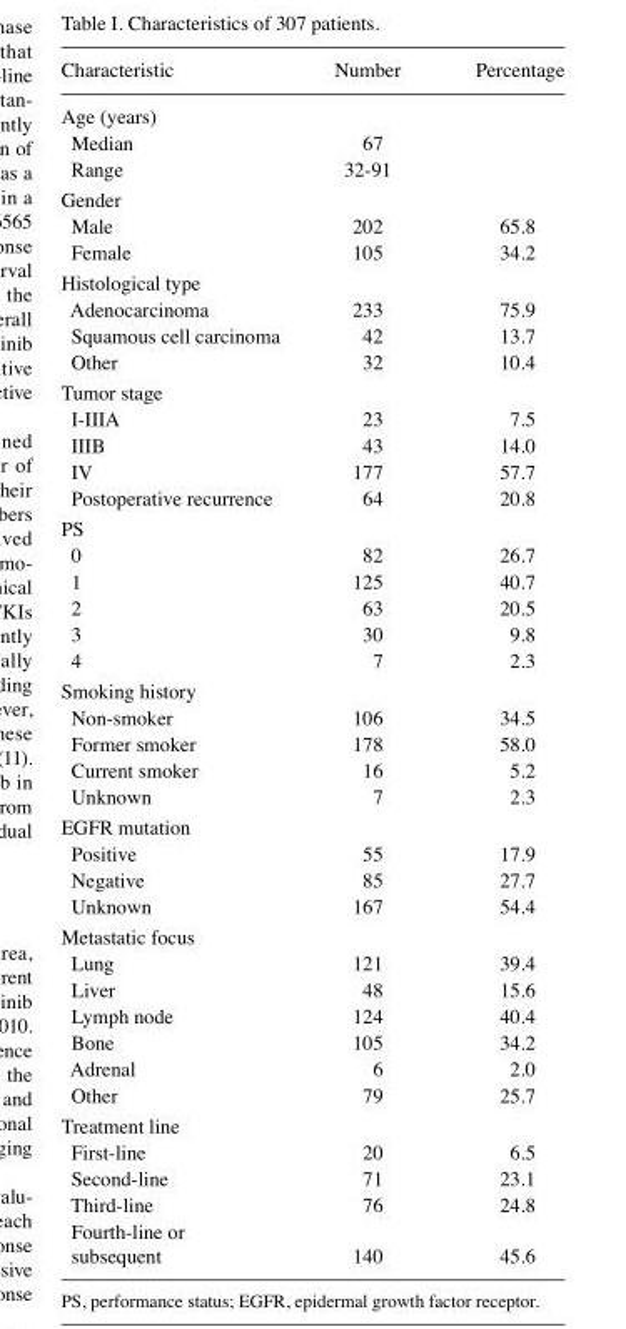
<table><thead><tr><td>Characteristic</td><td>Number</td><td>Percentage</td></tr></thead><tbody><tr><td colspan="3">Age (years)</td></tr><tr><td>Median</td><td>67</td><td></td></tr><tr><td>Range</td><td>32-91</td><td></td></tr><tr><td colspan="3">Gender</td></tr><tr><td>Male</td><td>202</td><td>65.8</td></tr><tr><td>Female</td><td>105</td><td>34.2</td></tr><tr><td colspan="3">Histological type</td></tr><tr><td>Adenocarcinoma</td><td>233</td><td>75.9</td></tr><tr><td>Squamous cell carcinoma</td><td>42</td><td>13.7</td></tr><tr><td>Other</td><td>32</td><td>10.4</td></tr><tr><td colspan="3">Tumor stage</td></tr><tr><td>I-IIIA</td><td>23</td><td>7.5</td></tr><tr><td>IIIB</td><td>43</td><td>14.0</td></tr><tr><td>IV</td><td>177</td><td>57.7</td></tr><tr><td>Postoperative recurrence</td><td>64</td><td>20.8</td></tr><tr><td colspan="3">PS</td></tr><tr><td>0</td><td>82</td><td>26.7</td></tr><tr><td>1</td><td>125</td><td>40.7</td></tr><tr><td>2</td><td>63</td><td>20.5</td></tr><tr><td>3</td><td>30</td><td>9.8</td></tr><tr><td>4</td><td>7</td><td>2.3</td></tr><tr><td colspan="3">Smoking history</td></tr><tr><td>Non-smoker</td><td>106</td><td>34.5</td></tr><tr><td>Former smoker</td><td>178</td><td>58.0</td></tr><tr><td>Current smoker</td><td>16</td><td>5.2</td></tr><tr><td>Unknown</td><td>7</td><td>2.3</td></tr><tr><td colspan="3">EGFR mutation</td></tr><tr><td>Positive</td><td>55</td><td>17.9</td></tr><tr><td>Negative</td><td>85</td><td>27.7</td></tr><tr><td>Unknown</td><td>167</td><td>54.4</td></tr><tr><td colspan="3">Metastatic focus</td></tr><tr><td>Lung</td><td>121</td><td>39.4</td></tr><tr><td>Liver</td><td>48</td><td>15.6</td></tr><tr><td>Lymph node</td><td>124</td><td>40.4</td></tr><tr><td>Bone</td><td>105</td><td>34.2</td></tr><tr><td>Adrenal</td><td>6</td><td>2.0</td></tr><tr><td>Other</td><td>79</td><td>25.7</td></tr><tr><td colspan="3">Treatment line</td></tr><tr><td>First-line</td><td>20</td><td>6.5</td></tr><tr><td>Second-line</td><td>71</td><td>23.1</td></tr><tr><td>Third-line</td><td>76</td><td>24.8</td></tr><tr><td>Fourth-line or subsequent</td><td>140</td><td>45.6</td></tr></tbody></table>